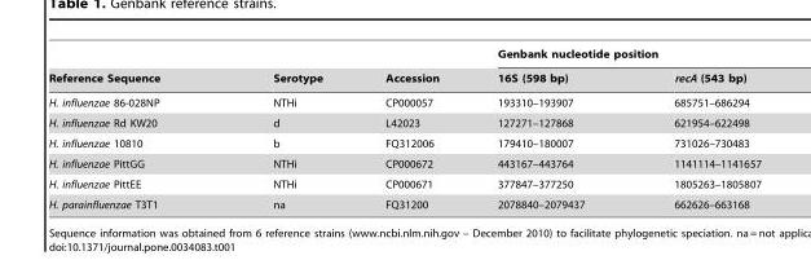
<table><thead><tr><td rowspan="2">Reference Sequence</td><td rowspan="2">Serotype</td><td rowspan="2">Accession</td><td colspan="2">Genbank nucleotide position</td></tr><tr><td>16S (598 bp)</td><td>recA (543 bp)</td></tr></thead><tbody><tr><td>H. influenzae 86-028NP</td><td>NTHi</td><td>CP000057</td><td>193310–193907</td><td>685751–686294</td></tr><tr><td>H. influenzae Rd KW20</td><td>d</td><td>L42023</td><td>127271–127868</td><td>621954–622498</td></tr><tr><td>H. influenzae 10810</td><td>b</td><td>FQ312006</td><td>179410–180007</td><td>731026–730483</td></tr><tr><td>H. influenzae PittGG</td><td>NTHi</td><td>CP000672</td><td>443167–443764</td><td>1141114–1141657</td></tr><tr><td>H. influenzae PittEE</td><td>NTHi</td><td>CP000671</td><td>377847–377250</td><td>1805263–1805807</td></tr><tr><td>H. parainfluenzae T3T1</td><td>na</td><td>FQ31200</td><td>2078840–2079437</td><td>662626–663168</td></tr></tbody></table>